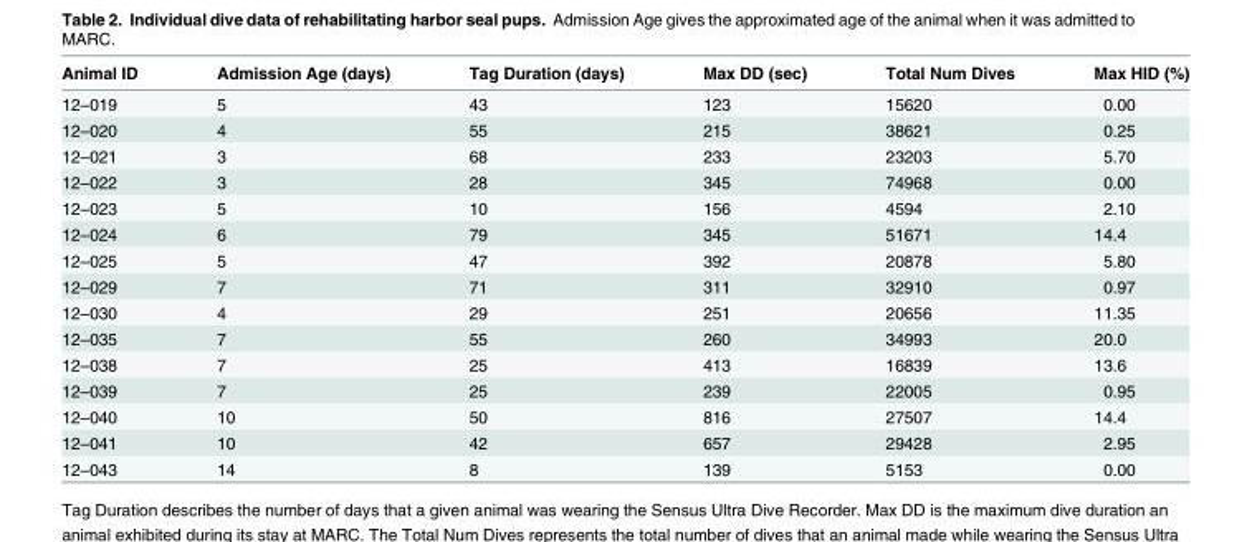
<table><thead><tr><td>Animal ID</td><td>Admission Age (days)</td><td>Tag Duration (days)</td><td>Max DD (sec)</td><td>Total Num Dives</td><td>Max HID (%)</td></tr></thead><tbody><tr><td>12–019</td><td>5</td><td>43</td><td>123</td><td>15620</td><td>0.00</td></tr><tr><td>12–020</td><td>4</td><td>55</td><td>215</td><td>38621</td><td>0.25</td></tr><tr><td>12–021</td><td>3</td><td>68</td><td>233</td><td>23203</td><td>5.70</td></tr><tr><td>12–022</td><td>3</td><td>28</td><td>345</td><td>74968</td><td>0.00</td></tr><tr><td>12–023</td><td>5</td><td>10</td><td>156</td><td>4594</td><td>2.10</td></tr><tr><td>12–024</td><td>6</td><td>79</td><td>345</td><td>51671</td><td>14.4</td></tr><tr><td>12–025</td><td>5</td><td>47</td><td>392</td><td>20878</td><td>5.80</td></tr><tr><td>12–029</td><td>7</td><td>71</td><td>311</td><td>32910</td><td>0.97</td></tr><tr><td>12–030</td><td>4</td><td>29</td><td>251</td><td>20656</td><td>11.35</td></tr><tr><td>12–035</td><td>7</td><td>55</td><td>260</td><td>34993</td><td>20.0</td></tr><tr><td>12–038</td><td>7</td><td>25</td><td>413</td><td>16839</td><td>13.6</td></tr><tr><td>12–039</td><td>7</td><td>25</td><td>239</td><td>22005</td><td>0.95</td></tr><tr><td>12–040</td><td>10</td><td>50</td><td>816</td><td>27507</td><td>14.4</td></tr><tr><td>12–041</td><td>10</td><td>42</td><td>657</td><td>29428</td><td>2.95</td></tr><tr><td>12–043</td><td>14</td><td>8</td><td>139</td><td>5153</td><td>0.00</td></tr></tbody></table>